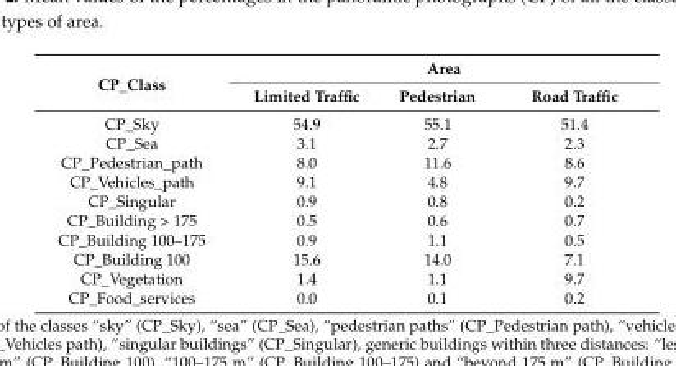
<table><thead><tr><td rowspan="2">CP_Class</td><td colspan="3">Area</td></tr><tr><td>Limited Traffic</td><td>Pedestrian</td><td>Road Traffic</td></tr></thead><tbody><tr><td>CP_Sky</td><td>54.9</td><td>55.1</td><td>51.4</td></tr><tr><td>CP_Sea</td><td>3.1</td><td>2.7</td><td>2.3</td></tr><tr><td>CP_Pedestrian_path</td><td>8.0</td><td>11.6</td><td>8.6</td></tr><tr><td>CP_Vehicles_path</td><td>9.1</td><td>4.8</td><td>9.7</td></tr><tr><td>CP_Singular</td><td>0.9</td><td>0.8</td><td>0.2</td></tr><tr><td>CP_Building &gt; 175</td><td>0.5</td><td>0.6</td><td>0.7</td></tr><tr><td>CP_Building 100–175</td><td>0.9</td><td>1.1</td><td>0.5</td></tr><tr><td>CP_Building 100</td><td>15.6</td><td>14.0</td><td>7.1</td></tr><tr><td>CP_Vegetation</td><td>1.4</td><td>1.1</td><td>9.7</td></tr><tr><td>CP_Food_services</td><td>0.0</td><td>0.1</td><td>0.2</td></tr></tbody></table>